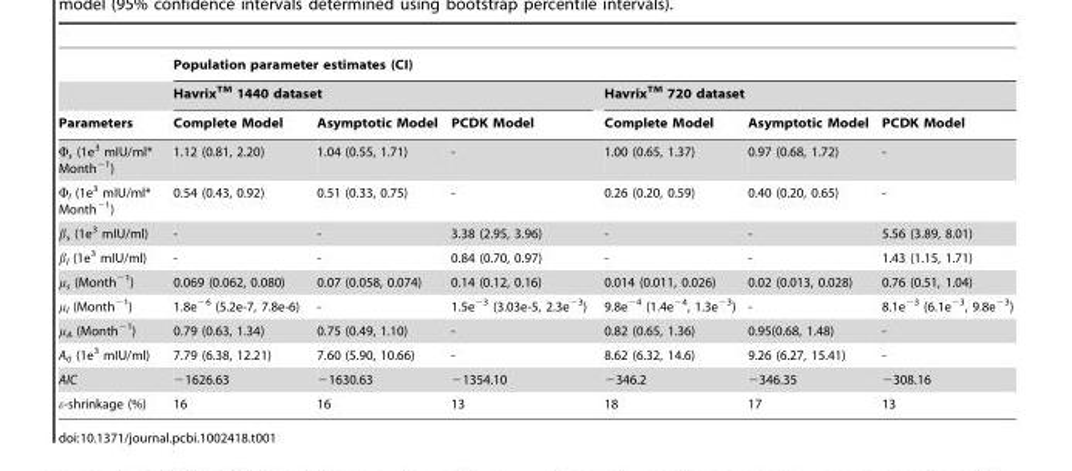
<table><thead><tr><td rowspan="3">Parameters</td><td colspan="6">Population parameter estimates (CI)</td></tr><tr><td colspan="3">HavrixTM 1440 dataset</td><td colspan="3">HavrixTM 720 dataset</td></tr><tr><td>Complete Model</td><td>Asymptotic Model</td><td>PCDK Model</td><td>Complete Model</td><td>Asymptotic Model</td><td>PCDK Model</td></tr></thead><tbody><tr><td>Φ<sub>s</sub> (1e<sup>3</sup> mIU/ml* Month<sup>−1</sup>)</td><td>1.12 (0.81, 2.20)</td><td>1.04 (0.55, 1.71)</td><td>-</td><td>1.00 (0.65, 1.37)</td><td>0.97 (0.68, 1.72)</td><td>-</td></tr><tr><td>Φ<sub>l</sub> (1e<sup>3</sup> mIU/ml* Month<sup>−1</sup>)</td><td>0.54 (0.43, 0.92)</td><td>0.51 (0.33, 0.75)</td><td>-</td><td>0.26 (0.20, 0.59)</td><td>0.40 (0.20, 0.65)</td><td>-</td></tr><tr><td>β<sub>s</sub> (1e<sup>3</sup> mIU/ml)</td><td>-</td><td>-</td><td>3.38 (2.95, 3.96)</td><td>-</td><td>-</td><td>5.56 (3.89, 8.01)</td></tr><tr><td>β<sub>l</sub> (1e<sup>3</sup> mIU/ml)</td><td>-</td><td>-</td><td>0.84 (0.70, 0.97)</td><td>-</td><td>-</td><td>1.43 (1.15, 1.71)</td></tr><tr><td>μ<sub>s</sub> (Month<sup>−1</sup>)</td><td>0.069 (0.062, 0.080)</td><td>0.07 (0.058, 0.074)</td><td>0.14 (0.12, 0.16)</td><td>0.014 (0.011, 0.026)</td><td>0.02 (0.013, 0.028)</td><td>0.76 (0.51, 1.04)</td></tr><tr><td>μ<sub>l</sub> (Month<sup>−1</sup>)</td><td>1.8e<sup>−6</sup> (5.2e-7, 7.8e-6)</td><td>-</td><td>1.5e<sup>−3</sup> (3.03e-5, 2.3e<sup>−3</sup>)</td><td>9.8e<sup>−4</sup> (1.4e<sup>−4</sup>, 1.3e<sup>−3</sup>)</td><td>-</td><td>8.1e<sup>−3</sup> (6.1e<sup>−3</sup>, 9.8e<sup>−3</sup>)</td></tr><tr><td>μ<sub>A</sub> (Month<sup>−1</sup>)</td><td>0.79 (0.63, 1.34)</td><td>0.75 (0.49, 1.10)</td><td>-</td><td>0.82 (0.65, 1.36)</td><td>0.95(0.68, 1.48)</td><td>-</td></tr><tr><td>A<sub>0</sub> (1e<sup>3</sup> mIU/ml)</td><td>7.79 (6.38, 12.21)</td><td>7.60 (5.90, 10.66)</td><td>-</td><td>8.62 (6.32, 14.6)</td><td>9.26 (6.27, 15.41)</td><td>-</td></tr><tr><td>AIC</td><td>−1626.63</td><td>−1630.63</td><td>−1354.10</td><td>−346.2</td><td>−346.35</td><td>−308.16</td></tr><tr><td>ε-shrinkage (%)</td><td>16</td><td>16</td><td>13</td><td>18</td><td>17</td><td>13</td></tr></tbody></table>